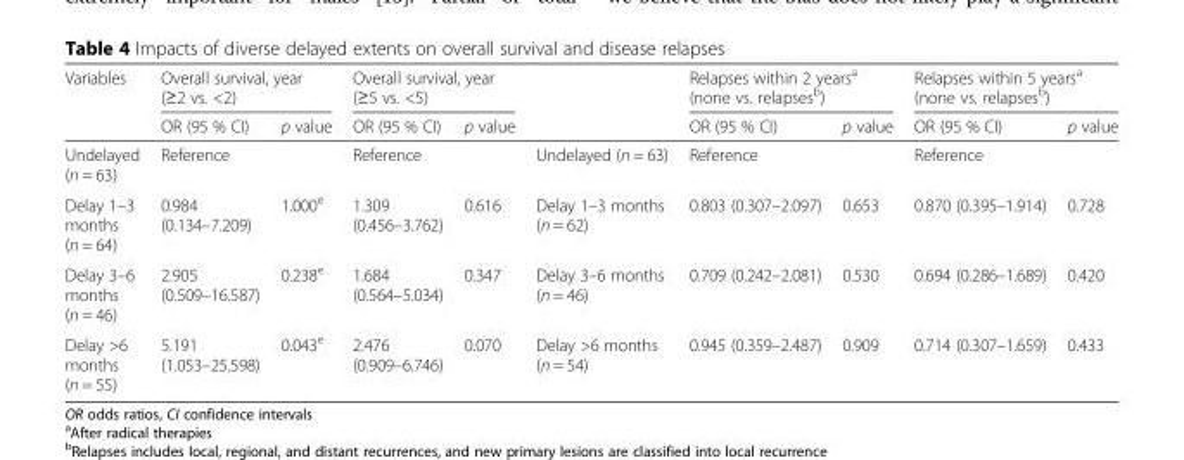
<table><thead><tr><td rowspan="2">Variables</td><td colspan="2">Overall survival, year (≥2 vs. &lt;2)</td><td colspan="2">Overall survival, year (≥5 vs. &lt;5)</td><td rowspan="2"></td><td colspan="2">Relapses within 2 years<sup>a</sup> (none vs. relapses<sup>b</sup>)</td><td colspan="2">Relapses within 5 years<sup>a</sup> (none vs. relapses<sup>b</sup>)</td></tr><tr><td>OR (95 % CI)</td><td>p value</td><td>OR (95 % CI)</td><td>p value</td><td>OR (95 % CI)</td><td>p value</td><td>OR (95 % CI)</td><td>p value</td></tr></thead><tbody><tr><td>Undelayed (n = 63)</td><td>Reference</td><td></td><td>Reference</td><td></td><td>Undelayed (n = 63)</td><td>Reference</td><td></td><td>Reference</td><td></td></tr><tr><td>Delay 1–3 months (n = 64)</td><td>0.984 (0.134–7.209)</td><td>1.000<sup>e</sup></td><td>1.309 (0.456–3.762)</td><td>0.616</td><td>Delay 1–3 months (n = 62)</td><td>0.803 (0.307–2.097)</td><td>0.653</td><td>0.870 (0.395–1.914)</td><td>0.728</td></tr><tr><td>Delay 3–6 months (n = 46)</td><td>2.905 (0.509–16.587)</td><td>0.238<sup>e</sup></td><td>1.684 (0.564–5.034)</td><td>0.347</td><td>Delay 3–6 months (n = 46)</td><td>0.709 (0.242–2.081)</td><td>0.530</td><td>0.694 (0.286–1.689)</td><td>0.420</td></tr><tr><td>Delay &gt;6 months (n = 55)</td><td>5.191 (1.053–25.598)</td><td>0.043<sup>e</sup></td><td>2.476 (0.909–6.746)</td><td>0.070</td><td>Delay &gt;6 months (n = 54)</td><td>0.945 (0.359–2.487)</td><td>0.909</td><td>0.714 (0.307–1.659)</td><td>0.433</td></tr></tbody></table>